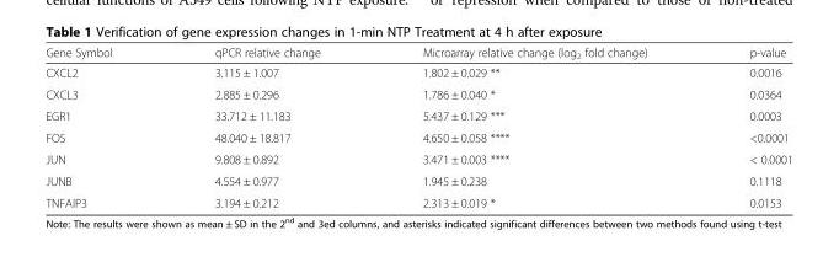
<table><thead><tr><td>Gene Symbol</td><td>qPCR relative change</td><td>Microarray relative change (log<sub>2</sub> fold change)</td><td>p-value</td></tr></thead><tbody><tr><td>CXCL2</td><td>3.115 ± 1.007</td><td>1.802 ± 0.029 **</td><td>0.0016</td></tr><tr><td>CXCL3</td><td>2.885 ± 0.296</td><td>1.786 ± 0.040 *</td><td>0.0364</td></tr><tr><td>EGR1</td><td>33.712 ± 11.183</td><td>5.437 ± 0.129 ***</td><td>0.0003</td></tr><tr><td>FOS</td><td>48.040 ± 18.817</td><td>4.650 ± 0.058 ****</td><td>&lt;0.0001</td></tr><tr><td>JUN</td><td>9.808 ± 0.892</td><td>3.471 ± 0.003 ****</td><td>&lt; 0.0001</td></tr><tr><td>JUNB</td><td>4.554 ± 0.977</td><td>1.945 ± 0.238</td><td>0.1118</td></tr><tr><td>TNFAIP3</td><td>3.194 ± 0.212</td><td>2.313 ± 0.019 *</td><td>0.0153</td></tr></tbody></table>